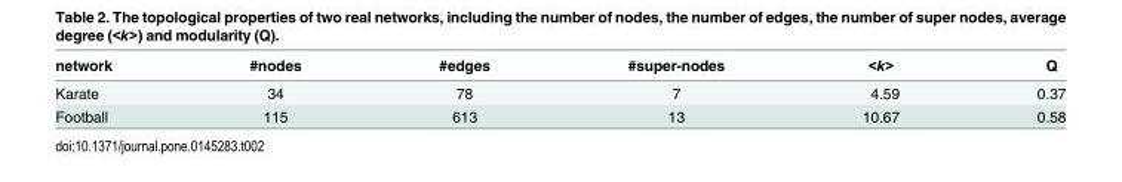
<table><thead><tr><td>network</td><td>#nodes</td><td>#edges</td><td>#super-nodes</td><td>&lt;k&gt;</td><td>Q</td></tr></thead><tbody><tr><td>Karate</td><td>34</td><td>78</td><td>7</td><td>4.59</td><td>0.37</td></tr><tr><td>Football</td><td>115</td><td>613</td><td>13</td><td>10.67</td><td>0.58</td></tr></tbody></table>